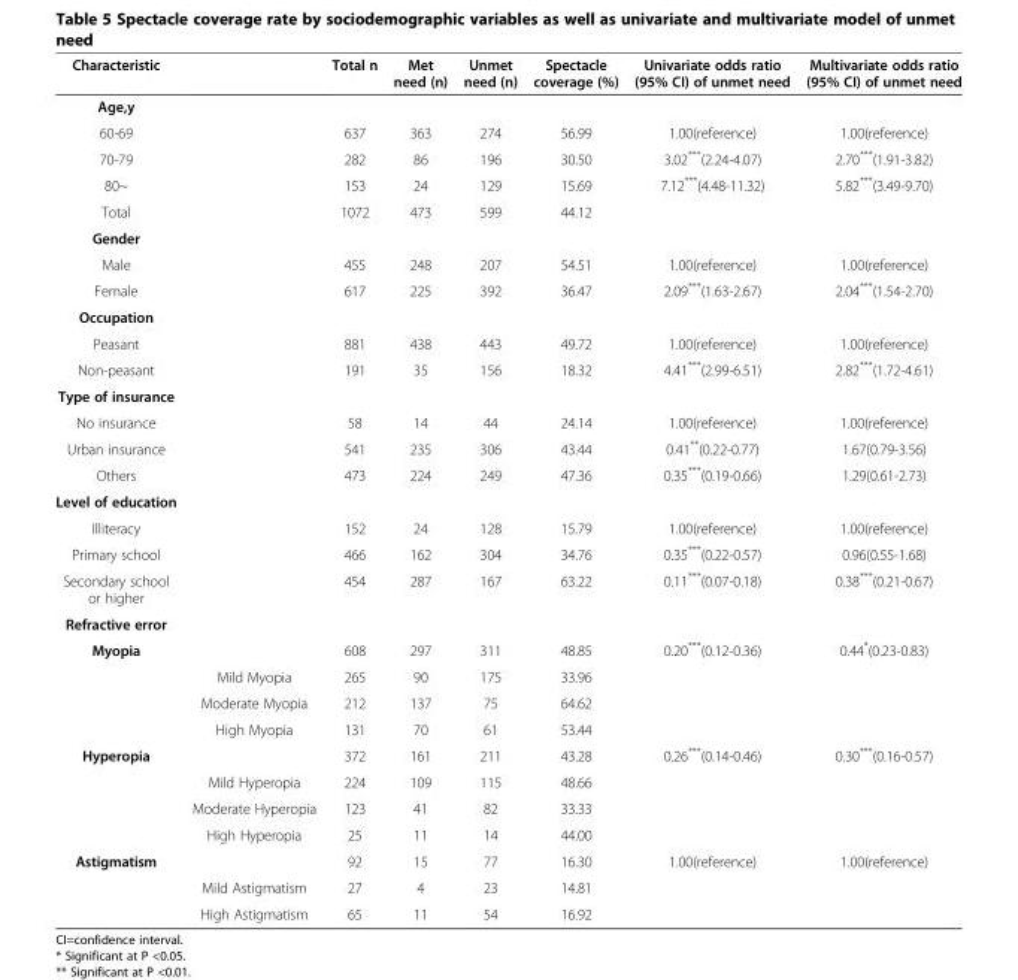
<table><thead><tr><td>Characteristic</td><td></td><td>Total n</td><td>Met need (n)</td><td>Unmet need (n)</td><td>Spectacle coverage (%)</td><td>Univariate odds ratio (95% CI) of unmet need</td><td>Multivariate odds ratio (95% CI) of unmet need</td></tr></thead><tbody><tr><td colspan="8">Age,y</td></tr><tr><td>60-69</td><td></td><td>637</td><td>363</td><td>274</td><td>56.99</td><td>1.00(reference)</td><td>1.00(reference)</td></tr><tr><td>70-79</td><td></td><td>282</td><td>86</td><td>196</td><td>30.50</td><td>3.02***(2.24-4.07)</td><td>2.70***(1.91-3.82)</td></tr><tr><td>80~</td><td></td><td>153</td><td>24</td><td>129</td><td>15.69</td><td>7.12***(4.48-11.32)</td><td>5.82***(3.49-9.70)</td></tr><tr><td>Total</td><td></td><td>1072</td><td>473</td><td>599</td><td>44.12</td><td></td><td></td></tr><tr><td colspan="8">Gender</td></tr><tr><td>Male</td><td></td><td>455</td><td>248</td><td>207</td><td>54.51</td><td>1.00(reference)</td><td>1.00(reference)</td></tr><tr><td>Female</td><td></td><td>617</td><td>225</td><td>392</td><td>36.47</td><td>2.09***(1.63-2.67)</td><td>2.04***(1.54-2.70)</td></tr><tr><td colspan="8">Occupation</td></tr><tr><td>Peasant</td><td></td><td>881</td><td>438</td><td>443</td><td>49.72</td><td>1.00(reference)</td><td>1.00(reference)</td></tr><tr><td>Non-peasant</td><td></td><td>191</td><td>35</td><td>156</td><td>18.32</td><td>4.41***(2.99-6.51)</td><td>2.82***(1.72-4.61)</td></tr><tr><td colspan="8">Type of insurance</td></tr><tr><td>No insurance</td><td></td><td>58</td><td>14</td><td>44</td><td>24.14</td><td>1.00(reference)</td><td>1.00(reference)</td></tr><tr><td>Urban insurance</td><td></td><td>541</td><td>235</td><td>306</td><td>43.44</td><td>0.41**(0.22-0.77)</td><td>1.67(0.79-3.56)</td></tr><tr><td>Others</td><td></td><td>473</td><td>224</td><td>249</td><td>47.36</td><td>0.35***(0.19-0.66)</td><td>1.29(0.61-2.73)</td></tr><tr><td colspan="8">Level of education</td></tr><tr><td>Illiteracy</td><td></td><td>152</td><td>24</td><td>128</td><td>15.79</td><td>1.00(reference)</td><td>1.00(reference)</td></tr><tr><td>Primary school</td><td></td><td>466</td><td>162</td><td>304</td><td>34.76</td><td>0.35***(0.22-0.57)</td><td>0.96(0.55-1.68)</td></tr><tr><td>Secondary school or higher</td><td></td><td>454</td><td>287</td><td>167</td><td>63.22</td><td>0.11***(0.07-0.18)</td><td>0.38***(0.21-0.67)</td></tr><tr><td colspan="8">Refractive error</td></tr><tr><td rowspan="4">Myopia</td><td></td><td>608</td><td>297</td><td>311</td><td>48.85</td><td>0.20***(0.12-0.36)</td><td>0.44*(0.23-0.83)</td></tr><tr><td>Mild Myopia</td><td>265</td><td>90</td><td>175</td><td>33.96</td><td></td><td></td></tr><tr><td>Moderate Myopia</td><td>212</td><td>137</td><td>75</td><td>64.62</td><td></td><td></td></tr><tr><td>High Myopia</td><td>131</td><td>70</td><td>61</td><td>53.44</td><td></td><td></td></tr><tr><td rowspan="4">Hyperopia</td><td></td><td>372</td><td>161</td><td>211</td><td>43.28</td><td>0.26***(0.14-0.46)</td><td>0.30***(0.16-0.57)</td></tr><tr><td>Mild Hyperopia</td><td>224</td><td>109</td><td>115</td><td>48.66</td><td></td><td></td></tr><tr><td>Moderate Hyperopia</td><td>123</td><td>41</td><td>82</td><td>33.33</td><td></td><td></td></tr><tr><td>High Hyperopia</td><td>25</td><td>11</td><td>14</td><td>44.00</td><td></td><td></td></tr><tr><td rowspan="3">Astigmatism</td><td></td><td>92</td><td>15</td><td>77</td><td>16.30</td><td>1.00(reference)</td><td>1.00(reference)</td></tr><tr><td>Mild Astigmatism</td><td>27</td><td>4</td><td>23</td><td>14.81</td><td></td><td></td></tr><tr><td>High Astigmatism</td><td>65</td><td>11</td><td>54</td><td>16.92</td><td></td><td></td></tr></tbody></table>